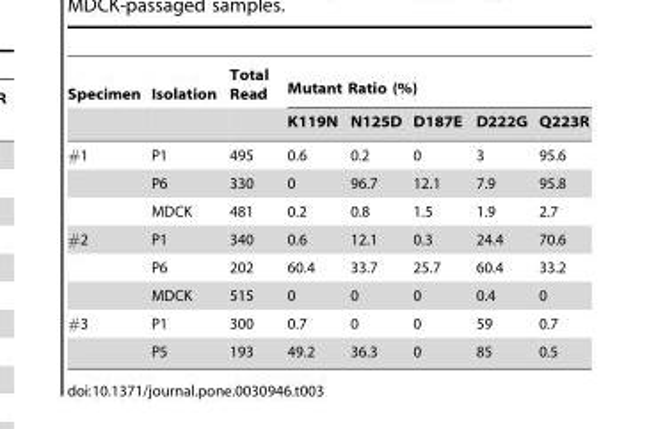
<table><thead><tr><td rowspan="2">Specimen</td><td rowspan="2">Isolation</td><td rowspan="2">Total Read</td><td colspan="5">Mutant Ratio (%)</td></tr><tr><td>K119N</td><td>N125D</td><td>D187E</td><td>D222G</td><td>Q223R</td></tr></thead><tbody><tr><td rowspan="3">#1</td><td>P1</td><td>495</td><td>0.6</td><td>0.2</td><td>0</td><td>3</td><td>95.6</td></tr><tr><td>P6</td><td>330</td><td>0</td><td>96.7</td><td>12.1</td><td>7.9</td><td>95.8</td></tr><tr><td>MDCK</td><td>481</td><td>0.2</td><td>0.8</td><td>1.5</td><td>1.9</td><td>2.7</td></tr><tr><td rowspan="3">#2</td><td>P1</td><td>340</td><td>0.6</td><td>12.1</td><td>0.3</td><td>24.4</td><td>70.6</td></tr><tr><td>P6</td><td>202</td><td>60.4</td><td>33.7</td><td>25.7</td><td>60.4</td><td>33.2</td></tr><tr><td>MDCK</td><td>515</td><td>0</td><td>0</td><td>0</td><td>0.4</td><td>0</td></tr><tr><td rowspan="2">#3</td><td>P1</td><td>300</td><td>0.7</td><td>0</td><td>0</td><td>59</td><td>0.7</td></tr><tr><td>P5</td><td>193</td><td>49.2</td><td>36.3</td><td>0</td><td>85</td><td>0.5</td></tr></tbody></table>